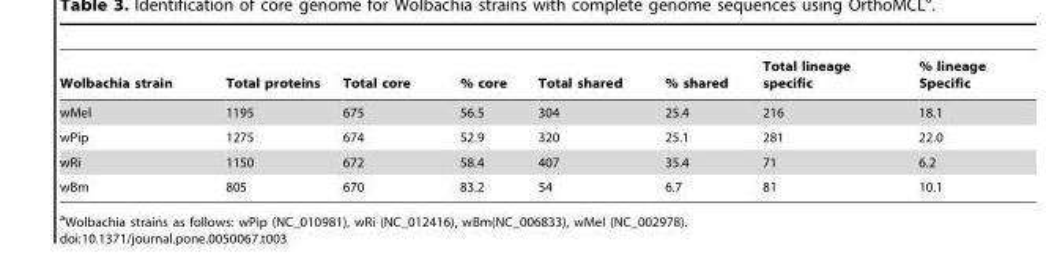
<table><thead><tr><td>Wolbachia strain</td><td>Total proteins</td><td>Total core</td><td>% core</td><td>Total shared</td><td>% shared</td><td>Total lineage specific</td><td>% lineage Specific</td></tr></thead><tbody><tr><td>wMel</td><td>1195</td><td>675</td><td>56.5</td><td>304</td><td>25.4</td><td>216</td><td>18.1</td></tr><tr><td>wPip</td><td>1275</td><td>674</td><td>52.9</td><td>320</td><td>25.1</td><td>281</td><td>22.0</td></tr><tr><td>wRi</td><td>1150</td><td>672</td><td>58.4</td><td>407</td><td>35.4</td><td>71</td><td>6.2</td></tr><tr><td>wBm</td><td>805</td><td>670</td><td>83.2</td><td>54</td><td>6.7</td><td>81</td><td>10.1</td></tr></tbody></table>